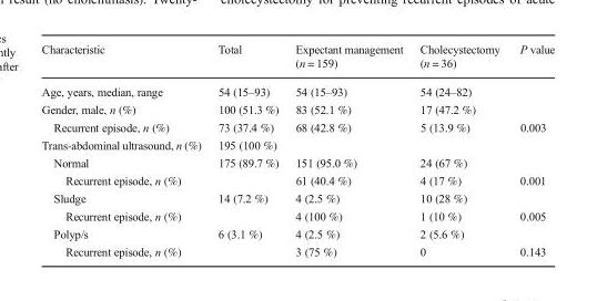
<table><thead><tr><td>Characteristic</td><td>Total</td><td>Expectant management (n = 159)</td><td>Cholecystectomy (n = 36)</td><td>P value</td></tr></thead><tbody><tr><td>Age, years, median, range</td><td>54 (15–93)</td><td>54 (15–93)</td><td>54 (24–82)</td><td></td></tr><tr><td>Gender, male, n (%)</td><td>100 (51.3 %)</td><td>83 (52.1 %)</td><td>17 (47.2 %)</td><td></td></tr><tr><td>Recurrent episode, n (%)</td><td>73 (37.4 %)</td><td>68 (42.8 %)</td><td>5 (13.9 %)</td><td>0.003</td></tr><tr><td>Trans-abdominal ultrasound, n (%)</td><td>195 (100 %)</td><td></td><td></td><td></td></tr><tr><td>Normal</td><td>175 (89.7 %)</td><td>151 (95.0 %)</td><td>24 (67 %)</td><td></td></tr><tr><td>Recurrent episode, n (%)</td><td></td><td>61 (40.4 %)</td><td>4 (17 %)</td><td>0.001</td></tr><tr><td>Sludge</td><td>14 (7.2 %)</td><td>4 (2.5 %)</td><td>10 (28 %)</td><td></td></tr><tr><td>Recurrent episode, n (%)</td><td></td><td>4 (100 %)</td><td>1 (10 %)</td><td>0.005</td></tr><tr><td>Polyp/s</td><td>6 (3.1 %)</td><td>4 (2.5 %)</td><td>2 (5.6 %)</td><td></td></tr><tr><td>Recurrent episode, n (%)</td><td></td><td>3 (75 %)</td><td>0</td><td>0.143</td></tr></tbody></table>